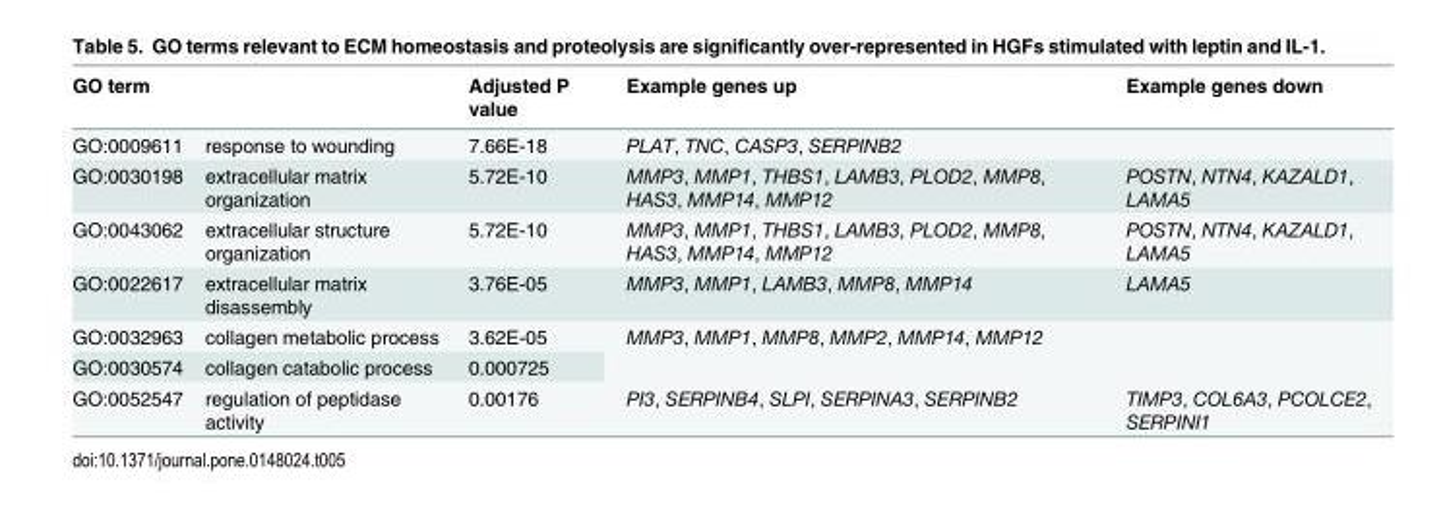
<table><thead><tr><td colspan="2">GO term</td><td rowspan="2">Adjusted P value 7.66E-18</td><td rowspan="2">Example genes up PLAT, TNC, CASP3, SERPINB2</td><td rowspan="2">Example genes down</td></tr><tr><td>GO:0009611</td><td>response to wounding</td></tr></thead><tbody><tr><td>GO:0030198</td><td>extracellular matrix organization</td><td>5.72E-10</td><td>MMP3, MMP1, THBS1, LAMB3, PLOD2, MMP8, HAS3, MMP14, MMP12</td><td>POSTN, NTN4, KAZALD1, LAMA5</td></tr><tr><td>GO:0043062</td><td>extracellular structure organization</td><td>5.72E-10</td><td>MMP3, MMP1, THBS1, LAMB3, PLOD2, MMP8, HAS3, MMP14, MMP12</td><td>POSTN, NTN4, KAZALD1, LAMA5</td></tr><tr><td>GO:0022617</td><td>extracellular matrix disassembly</td><td>3.76E-05</td><td>MMP3, MMP1, LAMB3, MMP8, MMP14</td><td>LAMA5</td></tr><tr><td>GO:0032963</td><td>collagen metabolic process</td><td>3.62E-05</td><td rowspan="2">MMP3, MMP1, MMP8, MMP2, MMP14, MMP12</td><td rowspan="2"></td></tr><tr><td>GO:0030574</td><td>collagen catabolic process</td><td>0.000725</td></tr><tr><td>GO:0052547</td><td>regulation of peptidase activity</td><td>0.00176</td><td>PI3, SERPINB4, SLPI, SERPINA3, SERPINB2</td><td>TIMP3, COL6A3, PCOLCE2, SERPINI1</td></tr></tbody></table>